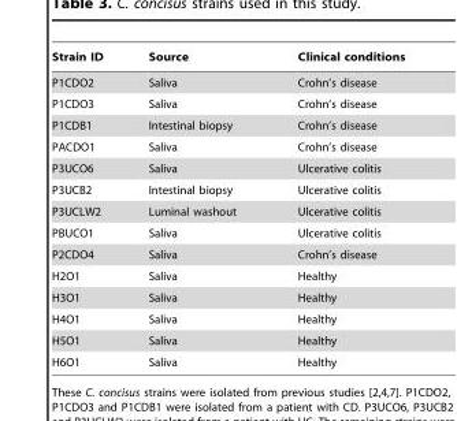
<table><thead><tr><td>Strain ID</td><td>Source</td><td>Clinical conditions</td></tr></thead><tbody><tr><td>P1CDO2</td><td>Saliva</td><td>Crohn’s disease</td></tr><tr><td>P1CDO3</td><td>Saliva</td><td>Crohn’s disease</td></tr><tr><td>P1CDB1</td><td>Intestinal biopsy</td><td>Crohn’s disease</td></tr><tr><td>PACDO1</td><td>Saliva</td><td>Crohn’s disease</td></tr><tr><td>P3UCO6</td><td>Saliva</td><td>Ulcerative colitis</td></tr><tr><td>P3UCB2</td><td>Intestinal biopsy</td><td>Ulcerative colitis</td></tr><tr><td>P3UCLW2</td><td>Luminal washout</td><td>Ulcerative colitis</td></tr><tr><td>PBUCO1</td><td>Saliva</td><td>Ulcerative colitis</td></tr><tr><td>P2CDO4</td><td>Saliva</td><td>Crohn’s disease</td></tr><tr><td>H2O1</td><td>Saliva</td><td>Healthy</td></tr><tr><td>H3O1</td><td>Saliva</td><td>Healthy</td></tr><tr><td>H4O1</td><td>Saliva</td><td>Healthy</td></tr><tr><td>H5O1</td><td>Saliva</td><td>Healthy</td></tr><tr><td>H6O1</td><td>Saliva</td><td>Healthy</td></tr></tbody></table>